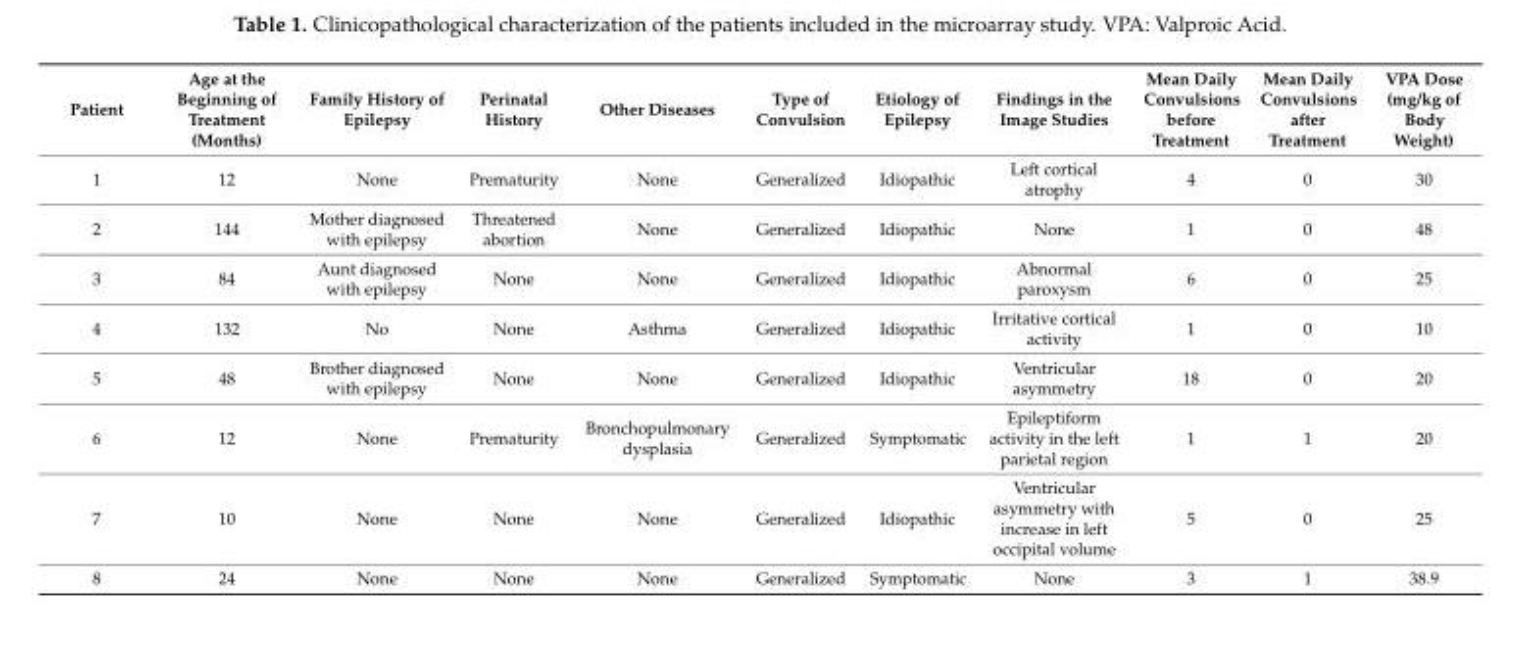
<table><thead><tr><td>Patient</td><td>Age at the Beginning of Treatment (Months)</td><td>Family History of Epilepsy</td><td>Perinatal History</td><td>Other Diseases</td><td>Type of Convulsion</td><td>Etiology of Epilepsy</td><td>Findings in the Image Studies</td><td>Mean Daily Convulsions before Treatment</td><td>Mean Daily Convulsions after Treatment</td><td>VPA Dose (mg/kg of Body Weight)</td></tr></thead><tbody><tr><td>1</td><td>12</td><td>None</td><td>Prematurity</td><td>None</td><td>Generalized</td><td>Idiopathic</td><td>Left cortical atrophy</td><td>4</td><td>0</td><td>30</td></tr><tr><td>2</td><td>144</td><td>Mother diagnosed with epilepsy</td><td>Threatened abortion</td><td>None</td><td>Generalized</td><td>Idiopathic</td><td>None</td><td>1</td><td>0</td><td>48</td></tr><tr><td>3</td><td>84</td><td>Aunt diagnosed with epilepsy</td><td>None</td><td>None</td><td>Generalized</td><td>Idiopathic</td><td>Abnormal paroxysm</td><td>6</td><td>0</td><td>25</td></tr><tr><td>4</td><td>132</td><td>No</td><td>None</td><td>Asthma</td><td>Generalized</td><td>Idiopathic</td><td>Irritative cortical activity</td><td>1</td><td>0</td><td>10</td></tr><tr><td>5</td><td>48</td><td>Brother diagnosed with epilepsy</td><td>None</td><td>None</td><td>Generalized</td><td>Idiopathic</td><td>Ventricular asymmetry</td><td>18</td><td>0</td><td>20</td></tr><tr><td>6</td><td>12</td><td>None</td><td>Prematurity</td><td>Bronchopulmonary dysplasia</td><td>Generalized</td><td>Symptomatic</td><td>Epileptiform activity in the left parietal region</td><td>1</td><td>1</td><td>20</td></tr><tr><td>7</td><td>10</td><td>None</td><td>None</td><td>None</td><td>Generalized</td><td>Idiopathic</td><td>Ventricular asymmetry with increase in left occipital volume</td><td>5</td><td>0</td><td>25</td></tr><tr><td>8</td><td>24</td><td>None</td><td>None</td><td>None</td><td>Generalized</td><td>Symptomatic</td><td>None</td><td>3</td><td>1</td><td>38.9</td></tr></tbody></table>